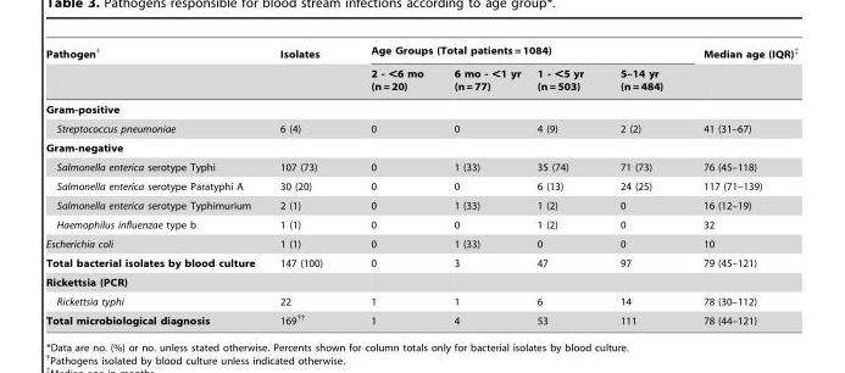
<table><thead><tr><td rowspan="2">Pathogen†</td><td rowspan="2">Isolates</td><td colspan="4">Age Groups (Total patients = 1084)</td><td rowspan="2">Median age (IQR)‡</td></tr><tr><td>2 - &lt;6 mo (n = 20)</td><td>6 mo - &lt;1 yr (n = 77)</td><td>1 - &lt;5 yr (n = 503)</td><td>5–14 yr (n = 484)</td></tr></thead><tbody><tr><td colspan="7">Gram-positive</td></tr><tr><td>Streptococcus pneumoniae</td><td>6 (4)</td><td>0</td><td>0</td><td>4 (9)</td><td>2 (2)</td><td>41 (31–67)</td></tr><tr><td colspan="7">Gram-negative</td></tr><tr><td>Salmonella enterica serotype Typhi</td><td>107 (73)</td><td>0</td><td>1 (33)</td><td>35 (74)</td><td>71 (73)</td><td>76 (45–118)</td></tr><tr><td>Salmonella enterica serotype Paratyphi A</td><td>30 (20)</td><td>0</td><td>0</td><td>6 (13)</td><td>24 (25)</td><td>117 (71–139)</td></tr><tr><td>Salmonella enterica serotype Typhimurium</td><td>2 (1)</td><td>0</td><td>1 (33)</td><td>1 (2)</td><td>0</td><td>16 (12–19)</td></tr><tr><td>Haemophilus influenzae type b</td><td>1 (1)</td><td>0</td><td>0</td><td>1 (2)</td><td>0</td><td>32</td></tr><tr><td>Escherichia coli</td><td>1 (1)</td><td>0</td><td>1 (33)</td><td>0</td><td>0</td><td>10</td></tr><tr><td>Total bacterial isolates by blood culture</td><td>147 (100)</td><td>0</td><td>3</td><td>47</td><td>97</td><td>79 (45–121)</td></tr><tr><td colspan="7">Rickettsia (PCR)</td></tr><tr><td>Rickettsia typhi</td><td>22</td><td>1</td><td>1</td><td>6</td><td>14</td><td>78 (30–112)</td></tr><tr><td>Total microbiological diagnosis</td><td>169††</td><td>1</td><td>4</td><td>53</td><td>111</td><td>78 (44–121)</td></tr></tbody></table>